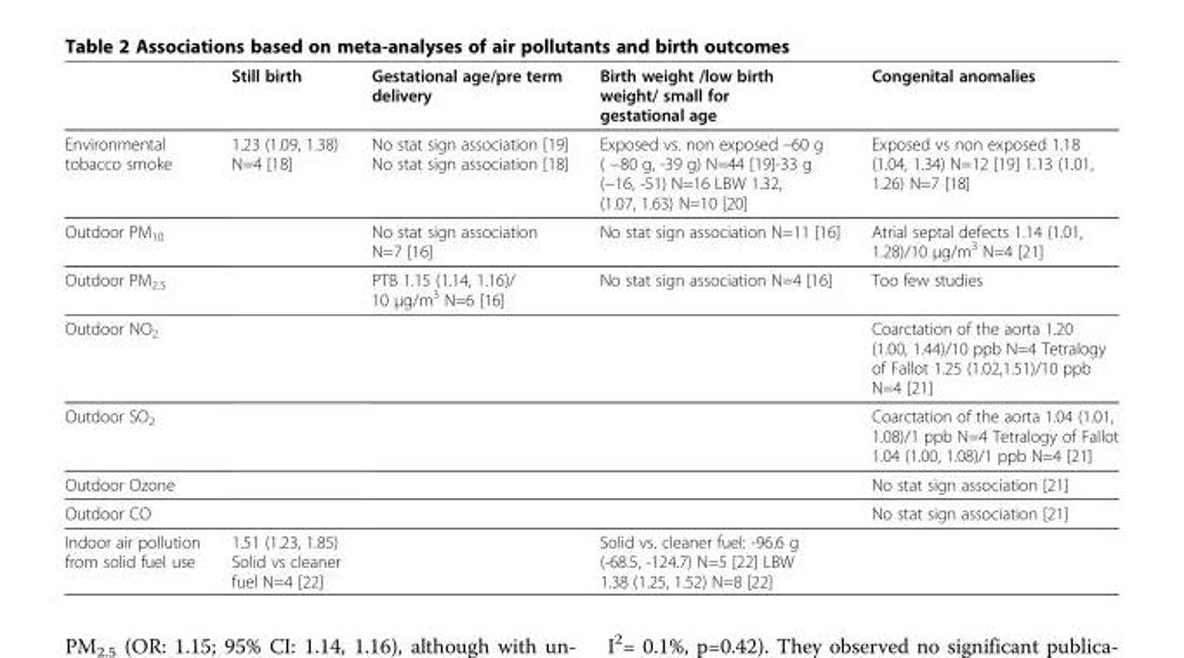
<table><thead><tr><td></td><td>Still birth</td><td>Gestational age/pre term delivery</td><td>Birth weight /low birth weight/ small for gestational age</td><td>Congenital anomalies</td></tr></thead><tbody><tr><td>Environmental tobacco smoke</td><td>1.23 (1.09, 1.38) N=4 [18]</td><td>No stat sign association [19] No stat sign association [18]</td><td>Exposed vs. non exposed –60 g ( −80 g, -39 g) N=44 [19]-33 g (−16, -51) N=16 LBW 1.32, (1.07, 1.63) N=10 [20]</td><td>Exposed vs non exposed 1.18 (1.04, 1.34) N=12 [19] 1.13 (1.01, 1.26) N=7 [18]</td></tr><tr><td>Outdoor PM<sub>10</sub></td><td></td><td>No stat sign association N=7 [16]</td><td>No stat sign association N=11 [16]</td><td>Atrial septal defects 1.14 (1.01, 1.28)/10 μg/m<sup>3</sup> N=4 [21]</td></tr><tr><td>Outdoor PM<sub>2.5</sub></td><td></td><td>PTB 1.15 (1.14, 1.16)/ 10 μg/m<sup>3</sup> N=6 [16]</td><td>No stat sign association N=4 [16]</td><td>Too few studies</td></tr><tr><td>Outdoor NO<sub>2</sub></td><td></td><td></td><td></td><td>Coarctation of the aorta 1.20 (1.00, 1.44)/10 ppb N=4 Tetralogy of Fallot 1.25 (1.02,1.51)/10 ppb N=4 [21]</td></tr><tr><td>Outdoor SO<sub>2</sub></td><td></td><td></td><td></td><td>Coarctation of the aorta 1.04 (1.01, 1.08)/1 ppb N=4 Tetralogy of Fallot 1.04 (1.00, 1.08)/1 ppb N=4 [21]</td></tr><tr><td>Outdoor Ozone</td><td></td><td></td><td></td><td>No stat sign association [21]</td></tr><tr><td>Outdoor CO</td><td></td><td></td><td></td><td>No stat sign association [21]</td></tr><tr><td>Indoor air pollution from solid fuel use</td><td>1.51 (1.23, 1.85) Solid vs cleaner fuel N=4 [22]</td><td></td><td>Solid vs. cleaner fuel: -96.6 g (-68.5, -124.7) N=5 [22] LBW 1.38 (1.25, 1.52) N=8 [22]</td><td></td></tr></tbody></table>